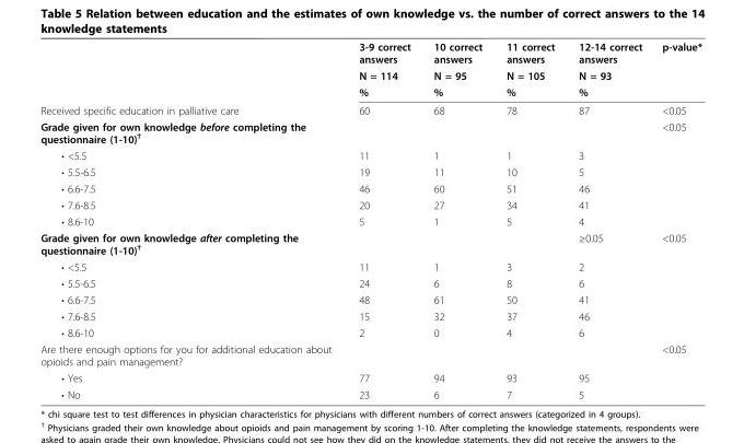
<table><thead><tr><td></td><td>3-9 correct answers</td><td>10 correct answers</td><td>11 correct answers</td><td>12-14 correct answers</td><td>p-value*</td></tr></thead><tbody><tr><td></td><td>N = 114</td><td>N = 95</td><td>N = 105</td><td>N = 93</td><td></td></tr><tr><td></td><td>%</td><td>%</td><td>%</td><td>%</td><td></td></tr><tr><td>Received specific education in palliative care</td><td>60</td><td>68</td><td>78</td><td>87</td><td>&lt;0.05</td></tr><tr><td>Grade given for own knowledge before completing the questionnaire (1-10)<sup>†</sup></td><td></td><td></td><td></td><td></td><td>&lt;0.05</td></tr><tr><td>• &lt;5.5</td><td>11</td><td>1</td><td>1</td><td>3</td><td></td></tr><tr><td>• 5.5-6.5</td><td>19</td><td>11</td><td>10</td><td>5</td><td></td></tr><tr><td>• 6.6-7.5</td><td>46</td><td>60</td><td>51</td><td>46</td><td></td></tr><tr><td>• 7.6-8.5</td><td>20</td><td>27</td><td>34</td><td>41</td><td></td></tr><tr><td>• 8.6-10</td><td>5</td><td>1</td><td>5</td><td>4</td><td></td></tr><tr><td>Grade given for own knowledge after completing the questionnaire (1-10)<sup>†</sup></td><td></td><td></td><td></td><td>≥0.05</td><td>&lt;0.05</td></tr><tr><td>• &lt;5.5</td><td>11</td><td>1</td><td>3</td><td>2</td><td></td></tr><tr><td>• 5.5-6.5</td><td>24</td><td>6</td><td>8</td><td>6</td><td></td></tr><tr><td>• 6.6-7.5</td><td>48</td><td>61</td><td>50</td><td>41</td><td></td></tr><tr><td>• 7.6-8.5</td><td>15</td><td>32</td><td>37</td><td>46</td><td></td></tr><tr><td>• 8.6-10</td><td>2</td><td>0</td><td>4</td><td>6</td><td></td></tr><tr><td>Are there enough options for you for additional education about opioids and pain management?</td><td></td><td></td><td></td><td></td><td>&lt;0.05</td></tr><tr><td>• Yes</td><td>77</td><td>94</td><td>93</td><td>95</td><td></td></tr><tr><td>• No</td><td>23</td><td>6</td><td>7</td><td>5</td><td></td></tr></tbody></table>